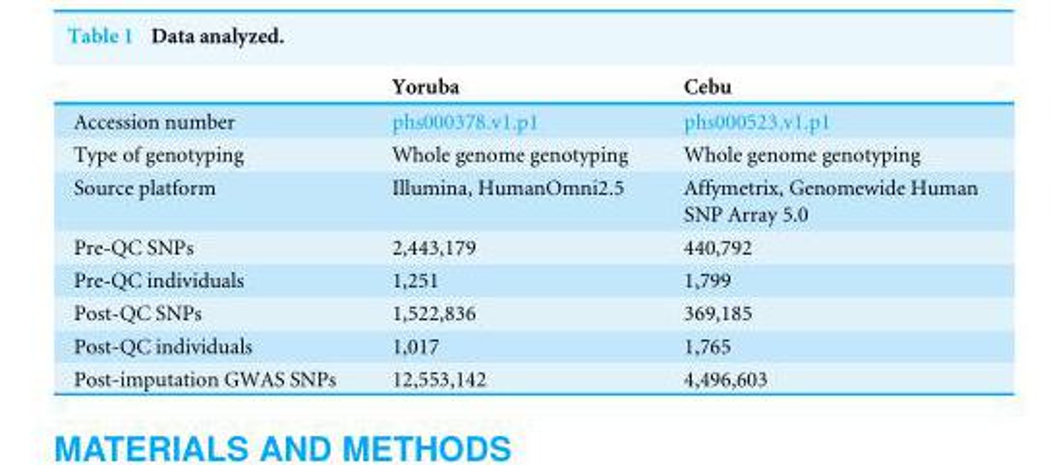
<table><thead><tr><td></td><td>Yoruba</td><td>Cebu</td></tr></thead><tbody><tr><td>Accession number</td><td>phs000378.v1.p1</td><td>phs000523.v1.p1</td></tr><tr><td>Type of genotyping</td><td>Whole genome genotyping</td><td>Whole genome genotyping</td></tr><tr><td>Source platform</td><td>Illumina, HumanOmni2.5</td><td>Affymetrix, Genomewide Human SNP Array 5.0</td></tr><tr><td>Pre-QC SNPs</td><td>2,443,179</td><td>440,792</td></tr><tr><td>Pre-QC individuals</td><td>1,251</td><td>1,799</td></tr><tr><td>Post-QC SNPs</td><td>1,522,836</td><td>369,185</td></tr><tr><td>Post-QC individuals</td><td>1,017</td><td>1,765</td></tr><tr><td>Post-imputation GWAS SNPs</td><td>12,553,142</td><td>4,496,603</td></tr></tbody></table>